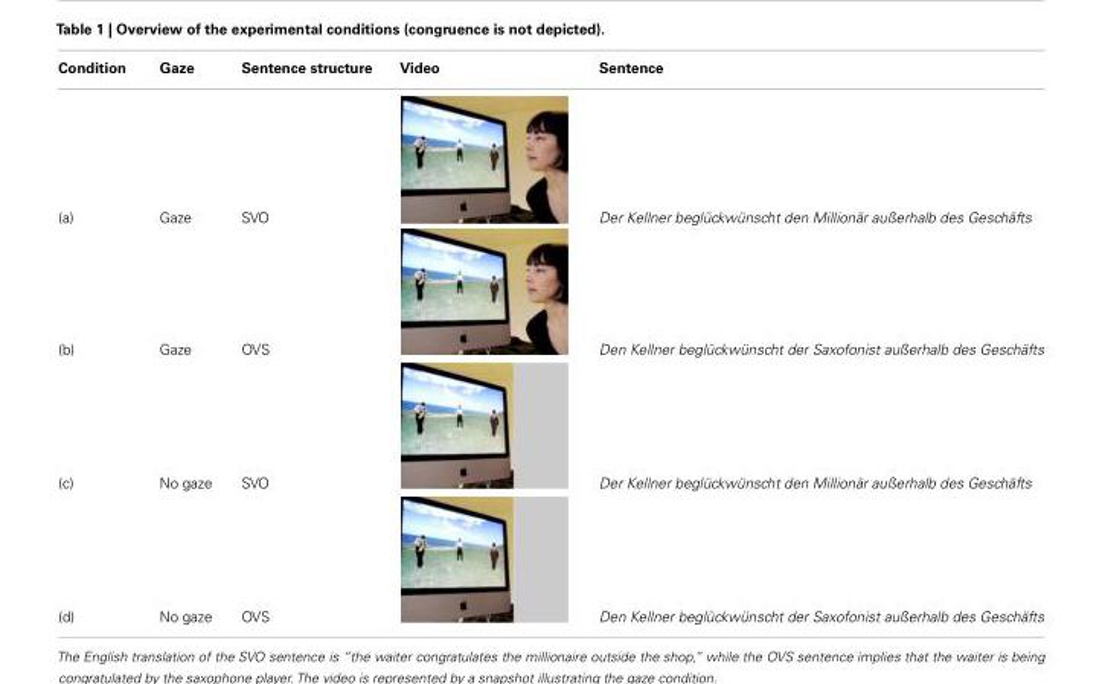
<table><thead><tr><td>Condition</td><td>Gaze</td><td>Sentence structure</td><td>Video</td><td>Sentence</td></tr></thead><tbody><tr><td>(a)</td><td>Gaze</td><td>SVO</td><td></td><td>Der Kellner beglückwünscht den Millionär außerhalb des Geschäfts</td></tr><tr><td>(b)</td><td>Gaze</td><td>OVS</td><td></td><td>Den Kellner beglückwünscht der Saxofonist außerhalb des Geschäfts</td></tr><tr><td>(c)</td><td>No gaze</td><td>SVO</td><td></td><td>Der Kellner beglückwünscht den Millionär außerhalb des Geschäfts</td></tr><tr><td>(d)</td><td>No gaze</td><td>OVS</td><td></td><td>Den Kellner beglückwünscht der Saxofonist außerhalb des Geschäfts</td></tr></tbody></table>